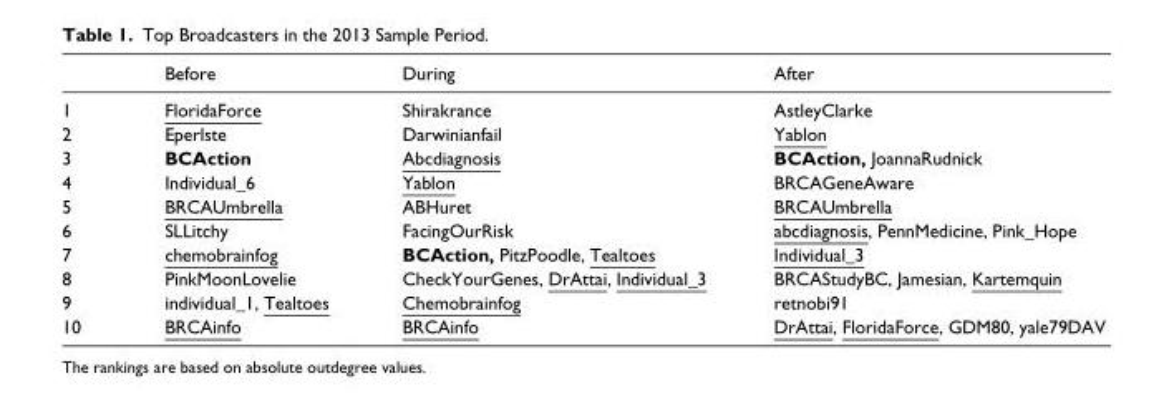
<table><thead><tr><td></td><td>Before</td><td>During</td><td>After</td></tr></thead><tbody><tr><td>1</td><td>FloridaForce</td><td>Shirakrance</td><td>AstleyClarke</td></tr><tr><td>2</td><td>Eperlste</td><td>Darwinianfail</td><td>Yablon</td></tr><tr><td>3</td><td>BCAction</td><td>Abcdiagnosis</td><td>BCAction, JoannaRudnick</td></tr><tr><td>4</td><td>Individual_6</td><td>Yablon</td><td>BRCAGeneAware</td></tr><tr><td>5</td><td>BRCAUmbrella</td><td>ABHuret</td><td>BRCAUmbrella</td></tr><tr><td>6</td><td>SLLitchy</td><td>FacingOurRisk</td><td>abcdiagnosis, PennMedicine, Pink_Hope</td></tr><tr><td>7</td><td>chemobrainfog</td><td>BCAction, PitzPoodle, Tealtoes</td><td>Individual_3</td></tr><tr><td>8</td><td>PinkMoonLovelie</td><td>CheckYourGenes, DrAttai, Individual_3</td><td>BRCAStudyBC, Jamesian, Kartemquin</td></tr><tr><td>9</td><td>individual_1, Tealtoes</td><td>Chemobrainfog</td><td>retnobi91</td></tr><tr><td>10</td><td>BRCAinfo</td><td>BRCAinfo</td><td>DrAttai, FloridaForce, GDM80, yale79DAV</td></tr></tbody></table>